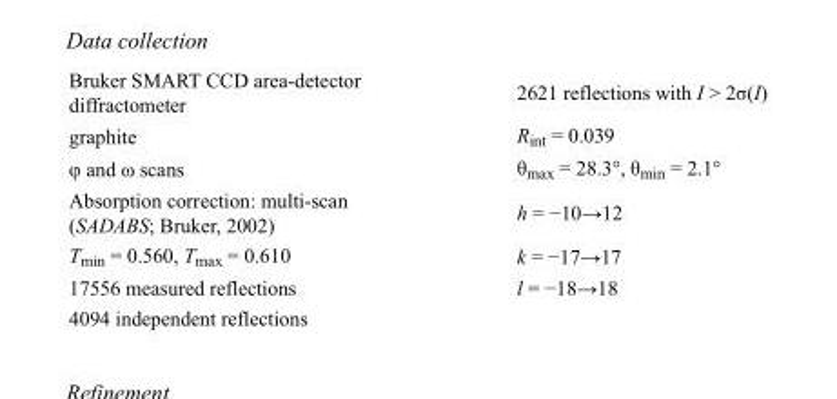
<table><tbody><tr><td>Bruker SMART CCD area-detector diffractometer</td><td>2621 reflections with I &gt; 2σ(I)</td></tr><tr><td>graphite</td><td>R<sub>int</sub> = 0.039</td></tr><tr><td>φ and ω scans</td><td>θ<sub>max</sub> = 28.3°, θ<sub>min</sub> = 2.1°</td></tr><tr><td>Absorption correction: multi-scan (SADABS; Bruker, 2002)</td><td>h = −10→12</td></tr><tr><td>T<sub>min</sub> = 0.560, T<sub>max</sub> = 0.610</td><td>k = −17→17</td></tr><tr><td>17556 measured reflections</td><td>l = −18→18</td></tr><tr><td>4094 independent reflections</td><td></td></tr></tbody></table>